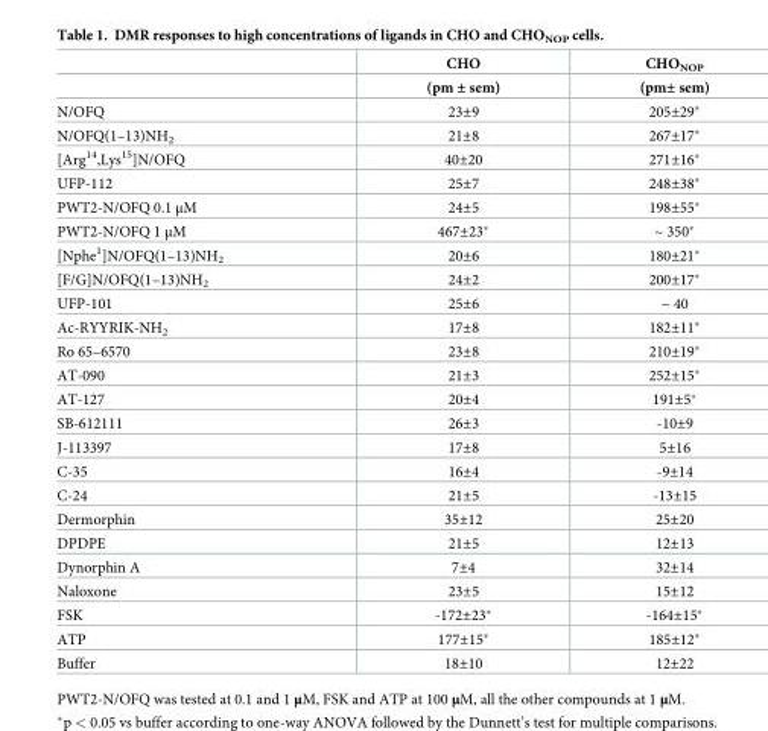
<table><thead><tr><td rowspan="2"></td><td rowspan="2">CHO (pm ± sem)</td><td rowspan="2">CHO<sub>NOP</sub> (pm± sem)</td></tr><tr></tr></thead><tbody><tr><td>N/OFQ</td><td>23±9</td><td>205±29*</td></tr><tr><td>N/OFQ(1–13)NH<sub>2</sub></td><td>21±8</td><td>267±17*</td></tr><tr><td>[Arg<sup>14</sup>,Lys<sup>15</sup>]N/OFQ</td><td>40±20</td><td>271±16*</td></tr><tr><td>UFP-112</td><td>25±7</td><td>248±38*</td></tr><tr><td>PWT2-N/OFQ 0.1 μM</td><td>24±5</td><td>198±55*</td></tr><tr><td>PWT2-N/OFQ 1 μM</td><td>467±23*</td><td>~ 350*</td></tr><tr><td>[Nphe<sup>1</sup>]N/OFQ(1–13)NH<sub>2</sub></td><td>20±6</td><td>180±21*</td></tr><tr><td>[F/G]N/OFQ(1–13)NH<sub>2</sub></td><td>24±2</td><td>200±17*</td></tr><tr><td>UFP-101</td><td>25±6</td><td>~ 40</td></tr><tr><td>Ac-RYYRIK-NH<sub>2</sub></td><td>17±8</td><td>182±11*</td></tr><tr><td>Ro 65–6570</td><td>23±8</td><td>210±19*</td></tr><tr><td>AT-090</td><td>21±3</td><td>252±15*</td></tr><tr><td>AT-127</td><td>20±4</td><td>191±5*</td></tr><tr><td>SB-612111</td><td>26±3</td><td>-10±9</td></tr><tr><td>J-113397</td><td>17±8</td><td>5±16</td></tr><tr><td>C-35</td><td>16±4</td><td>-9±14</td></tr><tr><td>C-24</td><td>21±5</td><td>-13±15</td></tr><tr><td>Dermorphin</td><td>35±12</td><td>25±20</td></tr><tr><td>DPDPE</td><td>21±5</td><td>12±13</td></tr><tr><td>Dynorphin A</td><td>7±4</td><td>32±14</td></tr><tr><td>Naloxone</td><td>23±5</td><td>15±12</td></tr><tr><td>FSK</td><td>-172±23*</td><td>-164±15*</td></tr><tr><td>ATP</td><td>177±15*</td><td>185±12*</td></tr><tr><td>Buffer</td><td>18±10</td><td>12±22</td></tr></tbody></table>